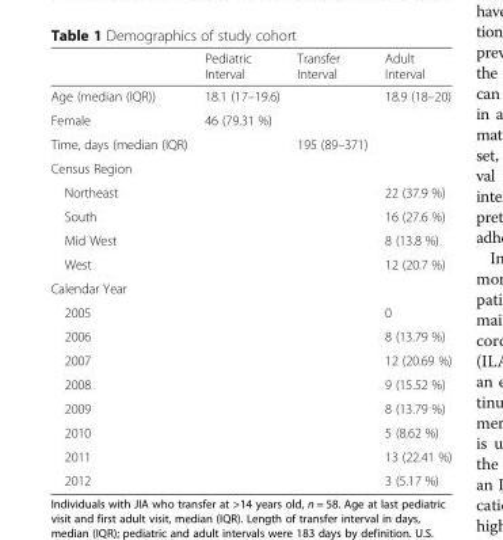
<table><thead><tr><td></td><td>Pediatric Interval</td><td>Transfer Interval</td><td>Adult Interval</td></tr></thead><tbody><tr><td>Age (median (IQR))</td><td>18.1 (17–19.6)</td><td></td><td>18.9 (18–20)</td></tr><tr><td>Female</td><td>46 (79.31 %)</td><td></td><td></td></tr><tr><td>Time, days (median (IQR)</td><td></td><td>195 (89–371)</td><td></td></tr><tr><td colspan="4">Census Region</td></tr><tr><td>Northeast</td><td></td><td></td><td>22 (37.9 %)</td></tr><tr><td>South</td><td></td><td></td><td>16 (27.6 %)</td></tr><tr><td>Mid West</td><td></td><td></td><td>8 (13.8 %)</td></tr><tr><td>West</td><td></td><td></td><td>12 (20.7 %)</td></tr><tr><td colspan="4">Calendar Year</td></tr><tr><td>2005</td><td></td><td></td><td>0</td></tr><tr><td>2006</td><td></td><td></td><td>8 (13.79 %)</td></tr><tr><td>2007</td><td></td><td></td><td>12 (20.69 %)</td></tr><tr><td>2008</td><td></td><td></td><td>9 (15.52 %)</td></tr><tr><td>2009</td><td></td><td></td><td>8 (13.79 %)</td></tr><tr><td>2010</td><td></td><td></td><td>5 (8.62 %)</td></tr><tr><td>2011</td><td></td><td></td><td>13 (22.41 %)</td></tr><tr><td>2012</td><td></td><td></td><td>3 (5.17 %)</td></tr></tbody></table>